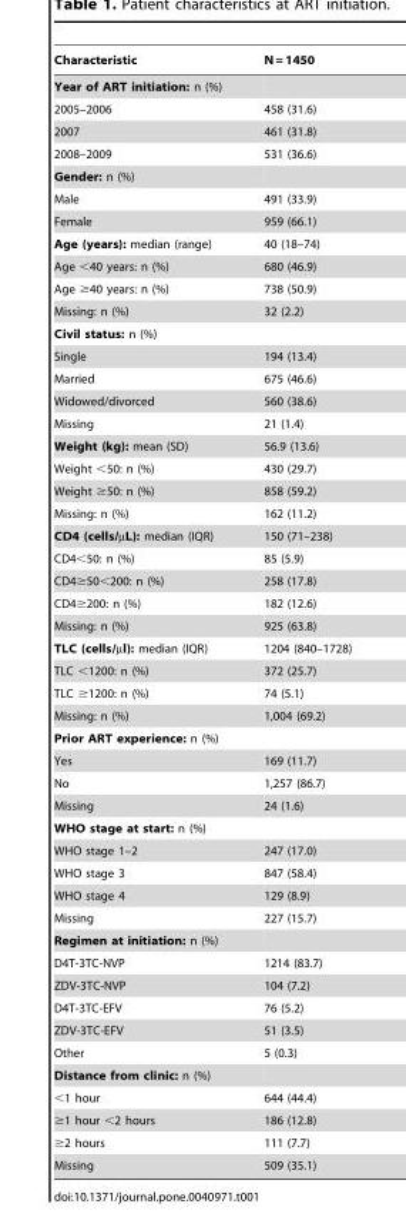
<table><thead><tr><td>Characteristic</td><td>N = 1450</td></tr></thead><tbody><tr><td colspan="2">Year of ART initiation: n (%)</td></tr><tr><td>2005–2006</td><td>458 (31.6)</td></tr><tr><td>2007</td><td>461 (31.8)</td></tr><tr><td>2008–2009</td><td>531 (36.6)</td></tr><tr><td colspan="2">Gender: n (%)</td></tr><tr><td>Male</td><td>491 (33.9)</td></tr><tr><td>Female</td><td>959 (66.1)</td></tr><tr><td>Age (years): median (range)</td><td>40 (18–74)</td></tr><tr><td>Age &lt;40 years: n (%)</td><td>680 (46.9)</td></tr><tr><td>Age ≥40 years: n (%)</td><td>738 (50.9)</td></tr><tr><td>Missing: n (%)</td><td>32 (2.2)</td></tr><tr><td colspan="2">Civil status: n (%)</td></tr><tr><td>Single</td><td>194 (13.4)</td></tr><tr><td>Married</td><td>675 (46.6)</td></tr><tr><td>Widowed/divorced</td><td>560 (38.6)</td></tr><tr><td>Missing</td><td>21 (1.4)</td></tr><tr><td>Weight (kg): mean (SD)</td><td>56.9 (13.6)</td></tr><tr><td>Weight &lt;50: n (%)</td><td>430 (29.7)</td></tr><tr><td>Weight ≥50: n (%)</td><td>858 (59.2)</td></tr><tr><td>Missing: n (%)</td><td>162 (11.2)</td></tr><tr><td>CD4 (cells/µL): median (IQR)</td><td>150 (71–238)</td></tr><tr><td>CD4&lt;50: n (%)</td><td>85 (5.9)</td></tr><tr><td>CD4≥50&lt;200: n (%)</td><td>258 (17.8)</td></tr><tr><td>CD4≥200: n (%)</td><td>182 (12.6)</td></tr><tr><td>Missing: n (%)</td><td>925 (63.8)</td></tr><tr><td>TLC (cells/µl): median (IQR)</td><td>1204 (840–1728)</td></tr><tr><td>TLC &lt;1200: n (%)</td><td>372 (25.7)</td></tr><tr><td>TLC ≥1200: n (%)</td><td>74 (5.1)</td></tr><tr><td>Missing: n (%)</td><td>1,004 (69.2)</td></tr><tr><td colspan="2">Prior ART experience: n (%)</td></tr><tr><td>Yes</td><td>169 (11.7)</td></tr><tr><td>No</td><td>1,257 (86.7)</td></tr><tr><td>Missing</td><td>24 (1.6)</td></tr><tr><td colspan="2">WHO stage at start: n (%)</td></tr><tr><td>WHO stage 1–2</td><td>247 (17.0)</td></tr><tr><td>WHO stage 3</td><td>847 (58.4)</td></tr><tr><td>WHO stage 4</td><td>129 (8.9)</td></tr><tr><td>Missing</td><td>227 (15.7)</td></tr><tr><td colspan="2">Regimen at initiation: n (%)</td></tr><tr><td>D4T-3TC-NVP</td><td>1214 (83.7)</td></tr><tr><td>ZDV-3TC-NVP</td><td>104 (7.2)</td></tr><tr><td>D4T-3TC-EFV</td><td>76 (5.2)</td></tr><tr><td>ZDV-3TC-EFV</td><td>51 (3.5)</td></tr><tr><td>Other</td><td>5 (0.3)</td></tr><tr><td colspan="2">Distance from clinic: n (%)</td></tr><tr><td>&lt;1 hour</td><td>644 (44.4)</td></tr><tr><td>≥1 hour &lt;2 hours</td><td>186 (12.8)</td></tr><tr><td>≥2 hours</td><td>111 (7.7)</td></tr><tr><td>Missing</td><td>509 (35.1)</td></tr></tbody></table>